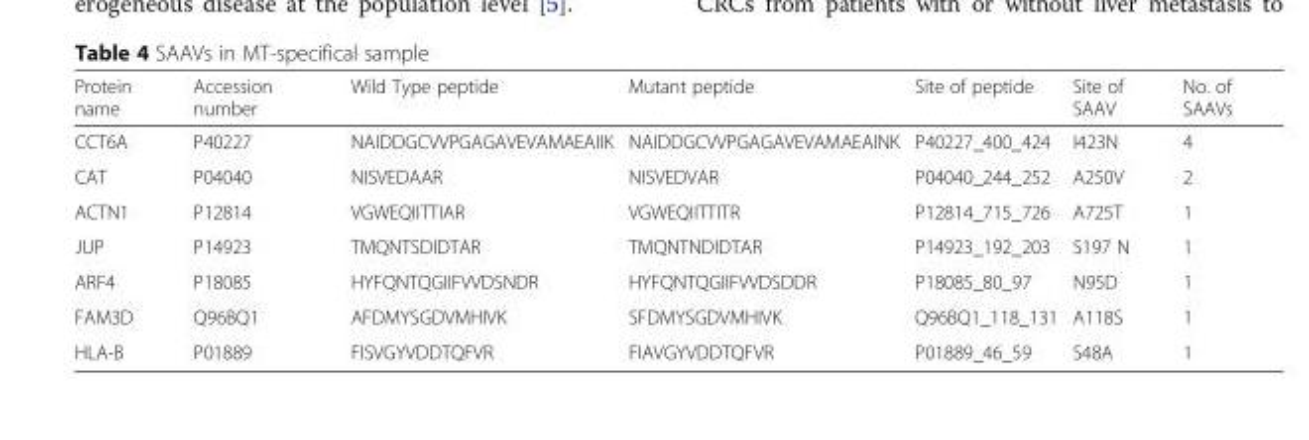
<table><thead><tr><td>Protein name</td><td>Accession number</td><td>Wild Type peptide</td><td>Mutant peptide</td><td>Site of peptide</td><td>Site of SAAV</td><td>No. of SAAVs</td></tr></thead><tbody><tr><td>CCT6A</td><td>P40227</td><td>NAIDDGCVVPGAGAVEVAMAEAIIK</td><td>NAIDDGCVVPGAGAVEVAMAEAINK</td><td>P40227_400_424</td><td>I423N</td><td>4</td></tr><tr><td>CAT</td><td>P04040</td><td>NISVEDAAR</td><td>NISVEDVAR</td><td>P04040_244_252</td><td>A250V</td><td>2</td></tr><tr><td>ACTN1</td><td>P12814</td><td>VGWEQIITTIAR</td><td>VGWEQIITTITR</td><td>P12814_715_726</td><td>A725T</td><td>1</td></tr><tr><td>JUP</td><td>P14923</td><td>TMQNTSDIDTAR</td><td>TMQNTNDIDTAR</td><td>P14923_192_203</td><td>S197 N</td><td>1</td></tr><tr><td>ARF4</td><td>P18085</td><td>HYFQNTQGIIFVVDSNDR</td><td>HYFQNTQGIIFVVDSDDR</td><td>P18085_80_97</td><td>N95D</td><td>1</td></tr><tr><td>FAM3D</td><td>Q96BQ1</td><td>AFDMYSGDVMHIVK</td><td>SFDMYSGDVMHIVK</td><td>Q96BQ1_118_131</td><td>A118S</td><td>1</td></tr><tr><td>HLA-B</td><td>P01889</td><td>FISVGYVDDTQFVR</td><td>FIAVGYVDDTQFVR</td><td>P01889_46_59</td><td>S48A</td><td>1</td></tr></tbody></table>